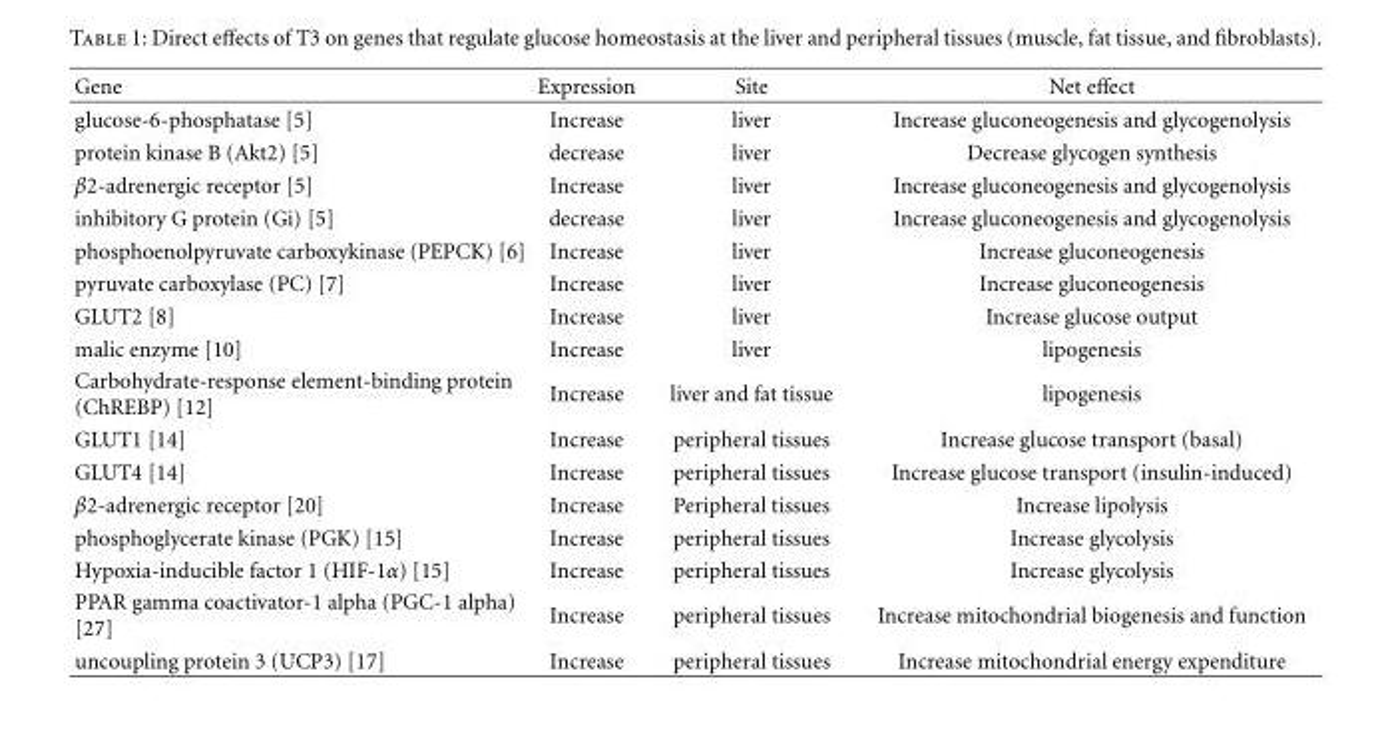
<table><thead><tr><td>Gene</td><td>Expression</td><td>Site</td><td>Net effect</td></tr></thead><tbody><tr><td>glucose-6-phosphatase [5]</td><td>Increase</td><td>liver</td><td>Increase gluconeogenesis and glycogenolysis</td></tr><tr><td>protein kinase B (Akt2) [5]</td><td>decrease</td><td>liver</td><td>Decrease glycogen synthesis</td></tr><tr><td>β2-adrenergic receptor [5]</td><td>Increase</td><td>liver</td><td>Increase gluconeogenesis and glycogenolysis</td></tr><tr><td>inhibitory G protein (Gi) [5]</td><td>decrease</td><td>liver</td><td>Increase gluconeogenesis and glycogenolysis</td></tr><tr><td>phosphoenolpyruvate carboxykinase (PEPCK) [6]</td><td>Increase</td><td>liver</td><td>Increase gluconeogenesis</td></tr><tr><td>pyruvate carboxylase (PC) [7]</td><td>Increase</td><td>liver</td><td>Increase gluconeogenesis</td></tr><tr><td>GLUT2 [8]</td><td>Increase</td><td>liver</td><td>Increase glucose output</td></tr><tr><td>malic enzyme [10]</td><td>Increase</td><td>liver</td><td>lipogenesis</td></tr><tr><td>Carbohydrate-response element-binding protein (ChREBP) [12]</td><td>Increase</td><td>liver and fat tissue</td><td>lipogenesis</td></tr><tr><td>GLUT1 [14]</td><td>Increase</td><td>peripheral tissues</td><td>Increase glucose transport (basal)</td></tr><tr><td>GLUT4 [14]</td><td>Increase</td><td>peripheral tissues</td><td>Increase glucose transport (insulin-induced)</td></tr><tr><td>β2-adrenergic receptor [20]</td><td>Increase</td><td>Peripheral tissues</td><td>Increase lipolysis</td></tr><tr><td>phosphoglycerate kinase (PGK) [15]</td><td>Increase</td><td>peripheral tissues</td><td>Increase glycolysis</td></tr><tr><td>Hypoxia-inducible factor 1 (HIF-1α) [15]</td><td>Increase</td><td>peripheral tissues</td><td>Increase glycolysis</td></tr><tr><td>PPAR gamma coactivator-1 alpha (PGC-1 alpha) [27]</td><td>Increase</td><td>peripheral tissues</td><td>Increase mitochondrial biogenesis and function</td></tr><tr><td>uncoupling protein 3 (UCP3) [17]</td><td>Increase</td><td>peripheral tissues</td><td>Increase mitochondrial energy expenditure</td></tr></tbody></table>